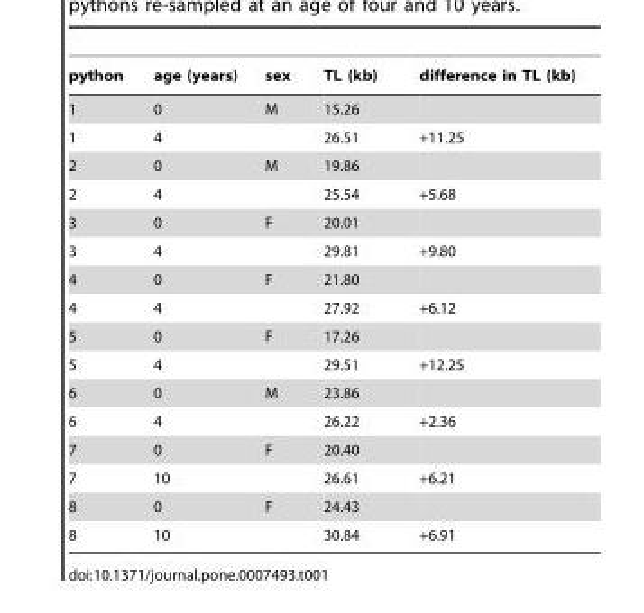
<table><thead><tr><td>python</td><td>age (years)</td><td>sex</td><td>TL (kb)</td><td>difference in TL (kb)</td></tr></thead><tbody><tr><td>1</td><td>0</td><td>M</td><td>15.26</td><td></td></tr><tr><td>1</td><td>4</td><td></td><td>26.51</td><td>+11.25</td></tr><tr><td>2</td><td>0</td><td>M</td><td>19.86</td><td></td></tr><tr><td>2</td><td>4</td><td></td><td>25.54</td><td>+5.68</td></tr><tr><td>3</td><td>0</td><td>F</td><td>20.01</td><td></td></tr><tr><td>3</td><td>4</td><td></td><td>29.81</td><td>+9.80</td></tr><tr><td>4</td><td>0</td><td>F</td><td>21.80</td><td></td></tr><tr><td>4</td><td>4</td><td></td><td>27.92</td><td>+6.12</td></tr><tr><td>5</td><td>0</td><td>F</td><td>17.26</td><td></td></tr><tr><td>5</td><td>4</td><td></td><td>29.51</td><td>+12.25</td></tr><tr><td>6</td><td>0</td><td>M</td><td>23.86</td><td></td></tr><tr><td>6</td><td>4</td><td></td><td>26.22</td><td>+2.36</td></tr><tr><td>7</td><td>0</td><td>F</td><td>20.40</td><td></td></tr><tr><td>7</td><td>10</td><td></td><td>26.61</td><td>+6.21</td></tr><tr><td>8</td><td>0</td><td>F</td><td>24.43</td><td></td></tr><tr><td>8</td><td>10</td><td></td><td>30.84</td><td>+6.91</td></tr></tbody></table>